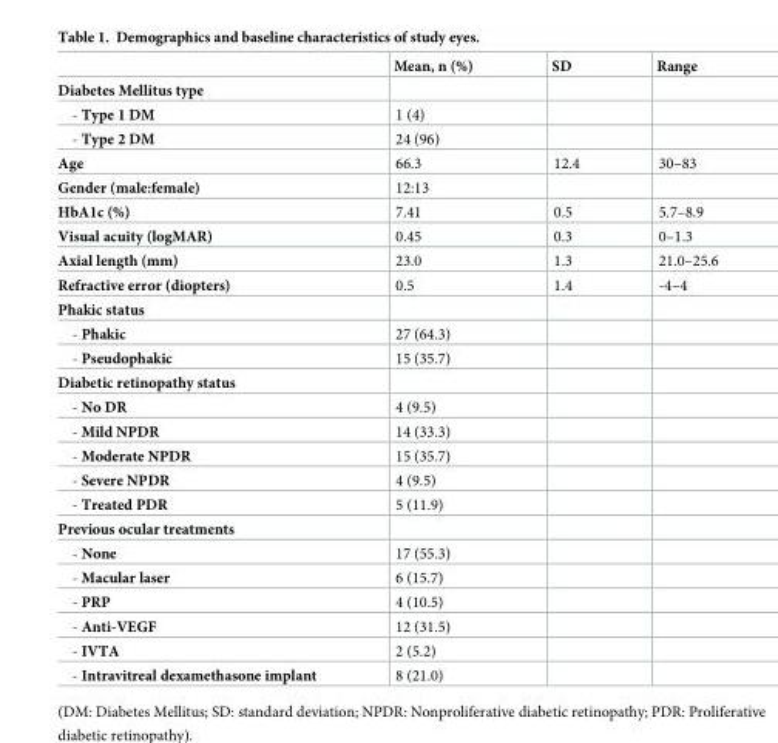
<table><thead><tr><td></td><td>Mean, n (%)</td><td>SD</td><td>Range</td></tr></thead><tbody><tr><td colspan="4">Diabetes Mellitus type</td></tr><tr><td>- Type 1 DM</td><td>1 (4)</td><td></td><td></td></tr><tr><td>- Type 2 DM</td><td>24 (96)</td><td></td><td></td></tr><tr><td>Age</td><td>66.3</td><td>12.4</td><td>30–83</td></tr><tr><td>Gender (male:female)</td><td>12:13</td><td></td><td></td></tr><tr><td>HbA1c (%)</td><td>7.41</td><td>0.5</td><td>5.7–8.9</td></tr><tr><td>Visual acuity (logMAR)</td><td>0.45</td><td>0.3</td><td>0–1.3</td></tr><tr><td>Axial length (mm)</td><td>23.0</td><td>1.3</td><td>21.0–25.6</td></tr><tr><td>Refractive error (diopters)</td><td>0.5</td><td>1.4</td><td>-4–4</td></tr><tr><td colspan="4">Phakic status</td></tr><tr><td>- Phakic</td><td>27 (64.3)</td><td></td><td></td></tr><tr><td>- Pseudophakic</td><td>15 (35.7)</td><td></td><td></td></tr><tr><td colspan="4">Diabetic retinopathy status</td></tr><tr><td>- No DR</td><td>4 (9.5)</td><td></td><td></td></tr><tr><td>- Mild NPDR</td><td>14 (33.3)</td><td></td><td></td></tr><tr><td>- Moderate NPDR</td><td>15 (35.7)</td><td></td><td></td></tr><tr><td>- Severe NPDR</td><td>4 (9.5)</td><td></td><td></td></tr><tr><td>- Treated PDR</td><td>5 (11.9)</td><td></td><td></td></tr><tr><td colspan="4">Previous ocular treatments</td></tr><tr><td>- None</td><td>17 (55.3)</td><td></td><td></td></tr><tr><td>- Macular laser</td><td>6 (15.7)</td><td></td><td></td></tr><tr><td>- PRP</td><td>4 (10.5)</td><td></td><td></td></tr><tr><td>- Anti-VEGF</td><td>12 (31.5)</td><td></td><td></td></tr><tr><td>- IVTA</td><td>2 (5.2)</td><td></td><td></td></tr><tr><td>- Intravitreal dexamethasone implant</td><td>8 (21.0)</td><td></td><td></td></tr></tbody></table>